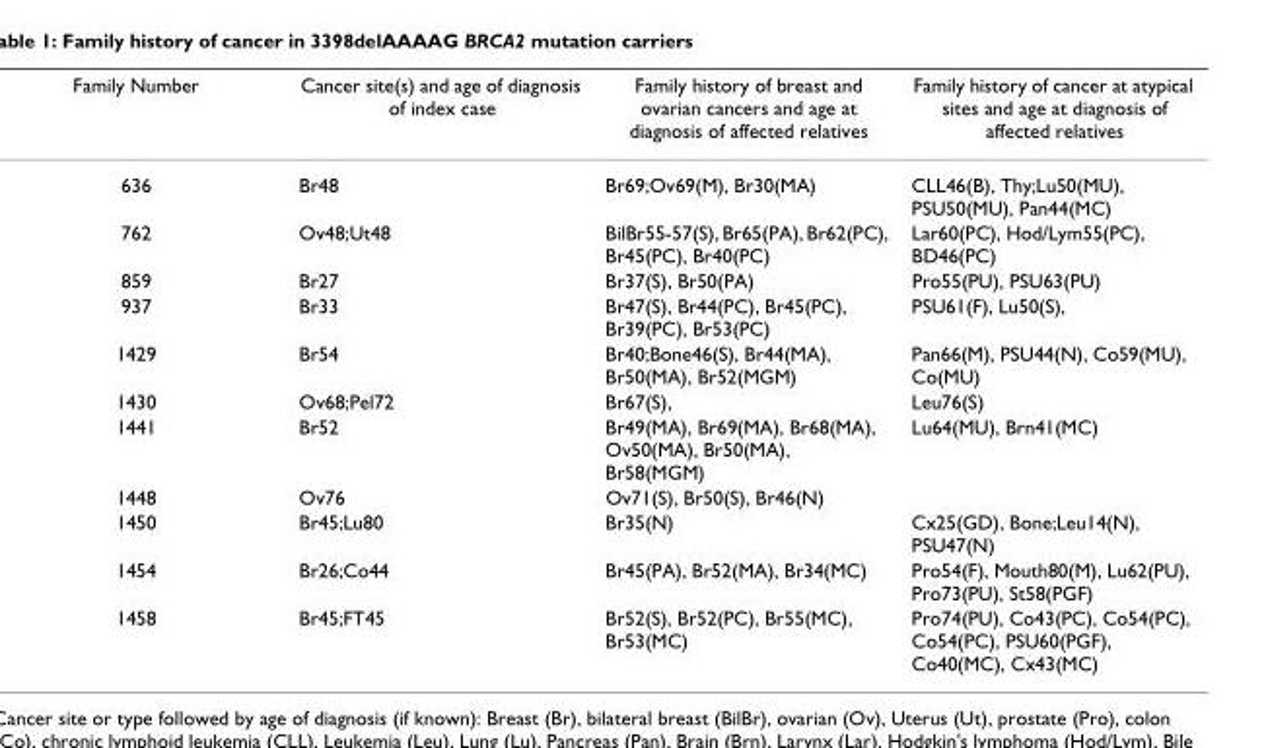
<table><thead><tr><td>Family Number</td><td>Cancer site(s) and age of diagnosis of index case</td><td>Family history of breast and ovarian cancers and age at diagnosis of affected relatives</td><td>Family history of cancer at atypical sites and age at diagnosis of affected relatives</td></tr></thead><tbody><tr><td>636</td><td>Br48</td><td>Br69;Ov69(M), Br30(MA)</td><td>CLL46(B), Thy;Lu50(MU), PSU50(MU), Pan44(MC)</td></tr><tr><td>762</td><td>Ov48;Ut48</td><td>BilBr55-57(S), Br65(PA), Br62(PC), Br45(PC), Br40(PC)</td><td>Lar60(PC), Hod/Lym55(PC), BD46(PC)</td></tr><tr><td>859</td><td>Br27</td><td>Br37(S), Br50(PA)</td><td>Pro55(PU), PSU63(PU)</td></tr><tr><td>937</td><td>Br33</td><td>Br47(S), Br44(PC), Br45(PC), Br39(PC), Br53(PC)</td><td>PSU61(F), Lu50(S),</td></tr><tr><td>1429</td><td>Br54</td><td>Br40;Bone46(S), Br44(MA), Br50(MA), Br52(MGM)</td><td>Pan66(M), PSU44(N), Co59(MU), Co(MU)</td></tr><tr><td>1430</td><td>Ov68;Pel72</td><td>Br67(S),</td><td>Leu76(S)</td></tr><tr><td>1441</td><td>Br52</td><td>Br49(MA), Br69(MA), Br68(MA), Ov50(MA), Br50(MA), Br58(MGM)</td><td>Lu64(MU), Brn41(MC)</td></tr><tr><td>1448</td><td>Ov76</td><td>Ov71(S), Br50(S), Br46(N)</td><td></td></tr><tr><td>1450</td><td>Br45;Lu80</td><td>Br35(N)</td><td>Cx25(GD), Bone;Leu14(N), PSU47(N)</td></tr><tr><td>1454</td><td>Br26;Co44</td><td>Br45(PA), Br52(MA), Br34(MC)</td><td>Pro54(F), Mouth80(M), Lu62(PU), Pro73(PU), St58(PGF)</td></tr><tr><td>1458</td><td>Br45;FT45</td><td>Br52(S), Br52(PC), Br55(MC), Br53(MC)</td><td>Pro74(PU), Co43(PC), Co54(PC), Co54(PC), PSU60(PGF), Co40(MC), Cx43(MC)</td></tr></tbody></table>